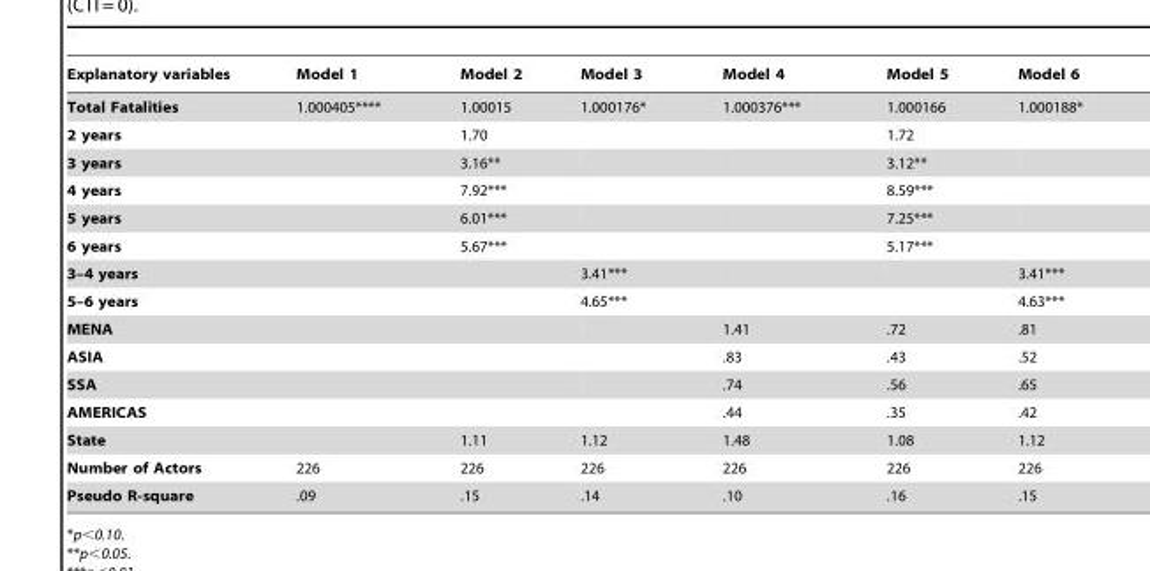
<table><thead><tr><td>Explanatory variables</td><td>Model 1</td><td>Model 2</td><td>Model 3</td><td>Model 4</td><td>Model 5</td><td>Model 6</td></tr></thead><tbody><tr><td>Total Fatalities</td><td>1.000405****</td><td>1.00015</td><td>1.000176*</td><td>1.000376***</td><td>1.000166</td><td>1.000188*</td></tr><tr><td>2 years</td><td></td><td>1.70</td><td></td><td></td><td>1.72</td><td></td></tr><tr><td>3 years</td><td></td><td>3.16**</td><td></td><td></td><td>3.12**</td><td></td></tr><tr><td>4 years</td><td></td><td>7.92***</td><td></td><td></td><td>8.59***</td><td></td></tr><tr><td>5 years</td><td></td><td>6.01***</td><td></td><td></td><td>7.25***</td><td></td></tr><tr><td>6 years</td><td></td><td>5.67***</td><td></td><td></td><td>5.17***</td><td></td></tr><tr><td>3–4 years</td><td></td><td></td><td>3.41***</td><td></td><td></td><td>3.41***</td></tr><tr><td>5–6 years</td><td></td><td></td><td>4.65***</td><td></td><td></td><td>4.63***</td></tr><tr><td>MENA</td><td></td><td></td><td></td><td>1.41</td><td>.72</td><td>.81</td></tr><tr><td>ASIA</td><td></td><td></td><td></td><td>.83</td><td>.43</td><td>.52</td></tr><tr><td>SSA</td><td></td><td></td><td></td><td>.74</td><td>.56</td><td>.65</td></tr><tr><td>AMERICAS</td><td></td><td></td><td></td><td>.44</td><td>.35</td><td>.42</td></tr><tr><td>State</td><td></td><td>1.11</td><td>1.12</td><td>1.48</td><td>1.08</td><td>1.12</td></tr><tr><td>Number of Actors</td><td>226</td><td>226</td><td>226</td><td>226</td><td>226</td><td>226</td></tr><tr><td>Pseudo R-square</td><td>.09</td><td>.15</td><td>.14</td><td>.10</td><td>.16</td><td>.15</td></tr></tbody></table>